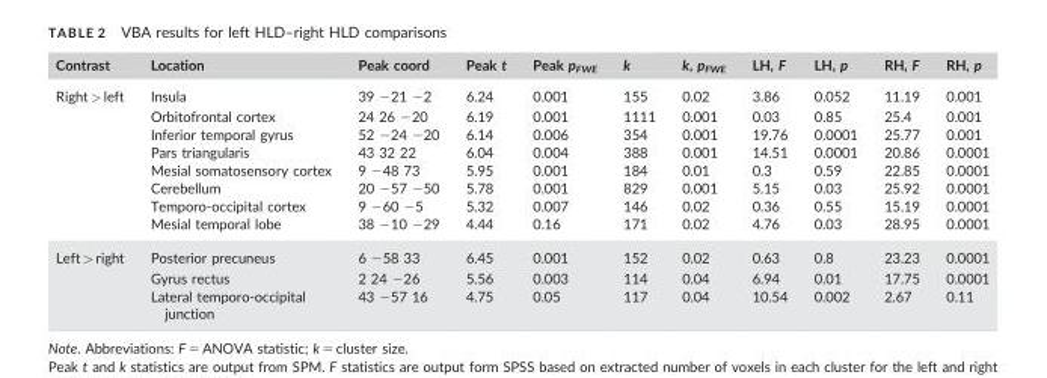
<table><thead><tr><td>Contrast</td><td>Location</td><td>Peak coord</td><td>Peak t</td><td>Peak p<sub>FWE</sub></td><td>k</td><td>k, p<sub>FWE</sub></td><td>LH, F</td><td>LH, p</td><td>RH, F</td><td>RH, p</td></tr></thead><tbody><tr><td rowspan="8">Right &gt; left</td><td>Insula</td><td>39 −21 −2</td><td>6.24</td><td>0.001</td><td>155</td><td>0.02</td><td>3.86</td><td>0.052</td><td>11.19</td><td>0.001</td></tr><tr><td>Orbitofrontal cortex</td><td>24 26 −20</td><td>6.19</td><td>0.001</td><td>1111</td><td>0.001</td><td>0.03</td><td>0.85</td><td>25.4</td><td>0.001</td></tr><tr><td>Inferior temporal gyrus</td><td>52 −24 −20</td><td>6.14</td><td>0.006</td><td>354</td><td>0.001</td><td>19.76</td><td>0.0001</td><td>25.77</td><td>0.001</td></tr><tr><td>Pars triangularis</td><td>43 32 22</td><td>6.04</td><td>0.004</td><td>388</td><td>0.001</td><td>14.51</td><td>0.0001</td><td>20.86</td><td>0.0001</td></tr><tr><td>Mesial somatosensory cortex</td><td>9 −48 73</td><td>5.95</td><td>0.001</td><td>184</td><td>0.01</td><td>0.3</td><td>0.59</td><td>22.85</td><td>0.0001</td></tr><tr><td>Cerebellum</td><td>20 −57 −50</td><td>5.78</td><td>0.001</td><td>829</td><td>0.001</td><td>5.15</td><td>0.03</td><td>25.92</td><td>0.0001</td></tr><tr><td>Temporo-occipital cortex</td><td>9 −60 −5</td><td>5.32</td><td>0.007</td><td>146</td><td>0.02</td><td>0.36</td><td>0.55</td><td>15.19</td><td>0.0001</td></tr><tr><td>Mesial temporal lobe</td><td>38 −10 −29</td><td>4.44</td><td>0.16</td><td>171</td><td>0.02</td><td>4.76</td><td>0.03</td><td>28.95</td><td>0.0001</td></tr><tr><td rowspan="3">Left &gt; right</td><td>Posterior precuneus</td><td>6 −58 33</td><td>6.45</td><td>0.001</td><td>152</td><td>0.02</td><td>0.63</td><td>0.8</td><td>23.23</td><td>0.0001</td></tr><tr><td>Gyrus rectus</td><td>2 24 −26</td><td>5.56</td><td>0.003</td><td>114</td><td>0.04</td><td>6.94</td><td>0.01</td><td>17.75</td><td>0.0001</td></tr><tr><td>Lateral temporo-occipital junction</td><td>43 −57 16</td><td>4.75</td><td>0.05</td><td>117</td><td>0.04</td><td>10.54</td><td>0.002</td><td>2.67</td><td>0.11</td></tr></tbody></table>